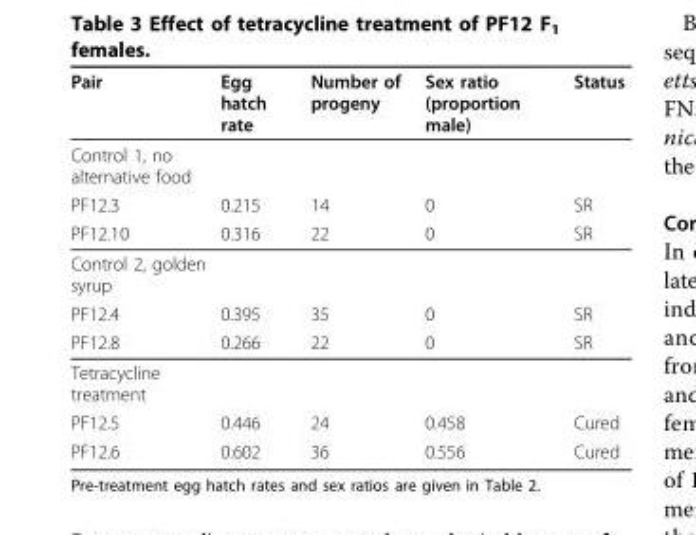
<table><thead><tr><td>Pair</td><td>Egg hatch rate</td><td>Number of progeny</td><td>Sex ratio (proportion male)</td><td>Status</td></tr></thead><tbody><tr><td colspan="5">Control 1, no alternative food</td></tr><tr><td>PF12.3</td><td>0.215</td><td>14</td><td>0</td><td>SR</td></tr><tr><td>PF12.10</td><td>0.316</td><td>22</td><td>0</td><td>SR</td></tr><tr><td colspan="5">Control 2, golden syrup</td></tr><tr><td>PF12.4</td><td>0.395</td><td>35</td><td>0</td><td>SR</td></tr><tr><td>PF12.8</td><td>0.266</td><td>22</td><td>0</td><td>SR</td></tr><tr><td colspan="5">Tetracycline treatment</td></tr><tr><td>PF12.5</td><td>0.446</td><td>24</td><td>0.458</td><td>Cured</td></tr><tr><td>PF12.6</td><td>0.602</td><td>36</td><td>0.556</td><td>Cured</td></tr></tbody></table>